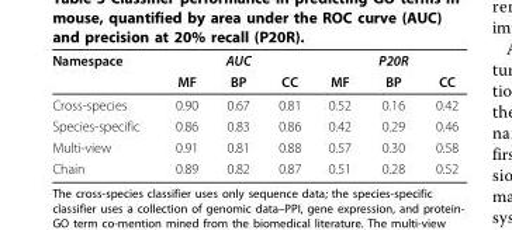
<table><thead><tr><td rowspan="2">Namespace</td><td rowspan="2">MF</td><td rowspan="2">AUC BP</td><td rowspan="2">CC</td><td rowspan="2">MF</td><td rowspan="2">P20R BP</td><td rowspan="2">CC</td></tr><tr></tr></thead><tbody><tr><td>Cross-species</td><td>0.90</td><td>0.67</td><td>0.81</td><td>0.52</td><td>0.16</td><td>0.42</td></tr><tr><td>Species-specific</td><td>0.86</td><td>0.83</td><td>0.86</td><td>0.42</td><td>0.29</td><td>0.46</td></tr><tr><td>Multi-view</td><td>0.91</td><td>0.81</td><td>0.88</td><td>0.57</td><td>0.30</td><td>0.58</td></tr><tr><td>Chain</td><td>0.89</td><td>0.82</td><td>0.87</td><td>0.51</td><td>0.28</td><td>0.52</td></tr></tbody></table>